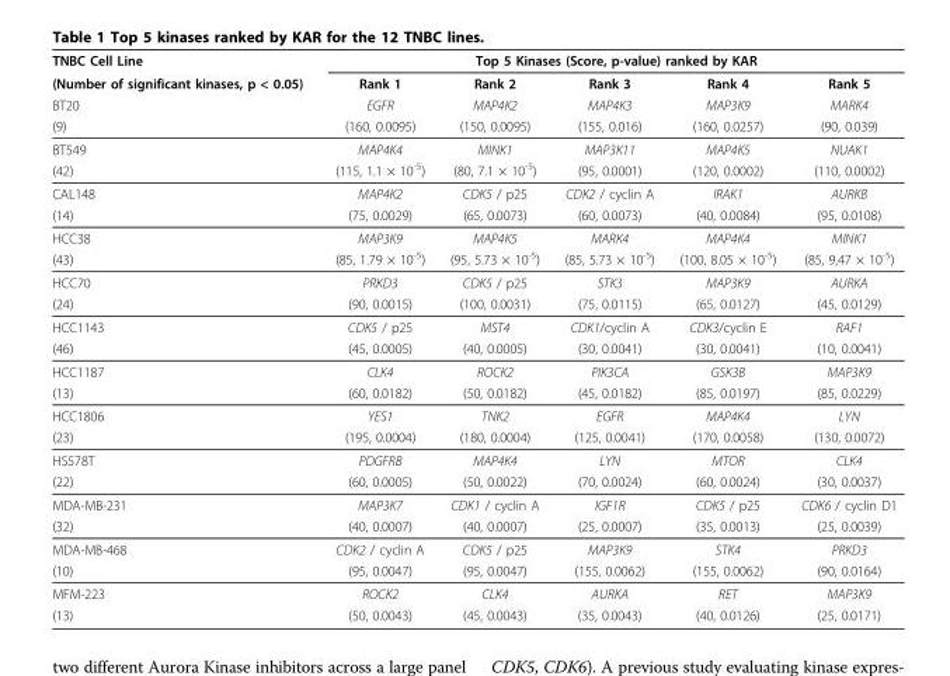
<table><thead><tr><td rowspan="4">TNBC Cell Line (Number of significant kinases, p &lt; 0.05) BT20 (9)</td><td colspan="5">Top 5 Kinases (Score, p-value) ranked by KAR</td></tr><tr><td rowspan="3">Rank 1 EGFR (160, 0.0095)</td><td rowspan="3">Rank 2 MAP4K2 (150, 0.0095)</td><td rowspan="3">Rank 3 MAP4K3 (155, 0.016)</td><td rowspan="3">Rank 4 MAP3K9 (160, 0.0257)</td><td rowspan="3">Rank 5 MARK4 (90, 0.039)</td></tr><tr></tr><tr></tr></thead><tbody><tr><td>BT549</td><td>MAP4K4</td><td>MINK1</td><td>MAP3K11</td><td>MAP4K5</td><td>NUAK1</td></tr><tr><td>(42)</td><td>(115, 1.1 × 10<sup>-5</sup>)</td><td>(80, 7.1 × 10<sup>-5</sup>)</td><td>(95, 0.0001)</td><td>(120, 0.0002)</td><td>(110, 0.0002)</td></tr><tr><td>CAL148</td><td>MAP4K2</td><td>CDK5 / p25</td><td>CDK2 / cyclin A</td><td>IRAK1</td><td>AURKB</td></tr><tr><td>(14)</td><td>(75, 0.0029)</td><td>(65, 0.0073)</td><td>(60, 0.0073)</td><td>(40, 0.0084)</td><td>(95, 0.0108)</td></tr><tr><td>HCC38</td><td>MAP3K9</td><td>MAP4K5</td><td>MARK4</td><td>MAP4K4</td><td>MINK1</td></tr><tr><td>(43)</td><td>(85, 1.79 × 10<sup>-5</sup>)</td><td>(95, 5.73 × 10<sup>-5</sup>)</td><td>(85, 5.73 × 10<sup>-5</sup>)</td><td>(100, 8.05 × 10<sup>-5</sup>)</td><td>(85, 9,47 × 10<sup>-5</sup>)</td></tr><tr><td>HCC70</td><td>PRKD3</td><td>CDK5 / p25</td><td>STK3</td><td>MAP3K9</td><td>AURKA</td></tr><tr><td>(24)</td><td>(90, 0.0015)</td><td>(100, 0.0031)</td><td>(75, 0.0115)</td><td>(65, 0.0127)</td><td>(45, 0.0129)</td></tr><tr><td>HCC1143</td><td>CDK5 / p25</td><td>MST4</td><td>CDK1/cyclin A</td><td>CDK3/cyclin E</td><td>RAF1</td></tr><tr><td>(46)</td><td>(45, 0.0005)</td><td>(40, 0.0005)</td><td>(30, 0.0041)</td><td>(30, 0.0041)</td><td>(10, 0.0041)</td></tr><tr><td>HCC1187</td><td>CLK4</td><td>ROCK2</td><td>PIK3CA</td><td>GSK3B</td><td>MAP3K9</td></tr><tr><td>(13)</td><td>(60, 0.0182)</td><td>(50, 0.0182)</td><td>(45, 0.0182)</td><td>(85, 0.0197)</td><td>(85, 0.0229)</td></tr><tr><td>HCC1806</td><td>YES1</td><td>TNK2</td><td>EGFR</td><td>MAP4K4</td><td>LYN</td></tr><tr><td>(23)</td><td>(195, 0.0004)</td><td>(180, 0.0004)</td><td>(125, 0.0041)</td><td>(170, 0.0058)</td><td>(130, 0.0072)</td></tr><tr><td>HS578T</td><td>PDGFRB</td><td>MAP4K4</td><td>LYN</td><td>MTOR</td><td>CLK4</td></tr><tr><td>(22)</td><td>(60, 0.0005)</td><td>(50, 0.0022)</td><td>(70, 0.0024)</td><td>(60, 0.0024)</td><td>(30, 0.0037)</td></tr><tr><td>MDA-MB-231</td><td>MAP3K7</td><td>CDK1 / cyclin A</td><td>IGF1R</td><td>CDK5 / p25</td><td>CDK6 / cyclin D1</td></tr><tr><td>(32)</td><td>(40, 0.0007)</td><td>(40, 0.0007)</td><td>(25, 0.0007)</td><td>(35, 0.0013)</td><td>(25, 0.0039)</td></tr><tr><td>MDA-MB-468</td><td>CDK2 / cyclin A</td><td>CDK5 / p25</td><td>MAP3K9</td><td>STK4</td><td>PRKD3</td></tr><tr><td>(10)</td><td>(95, 0.0047)</td><td>(95, 0.0047)</td><td>(155, 0.0062)</td><td>(155, 0.0062)</td><td>(90, 0.0164)</td></tr><tr><td>MFM-223</td><td>ROCK2</td><td>CLK4</td><td>AURKA</td><td>RET</td><td>MAP3K9</td></tr><tr><td>(13)</td><td>(50, 0.0043)</td><td>(45, 0.0043)</td><td>(35, 0.0043)</td><td>(40, 0.0126)</td><td>(25, 0.0171)</td></tr></tbody></table>